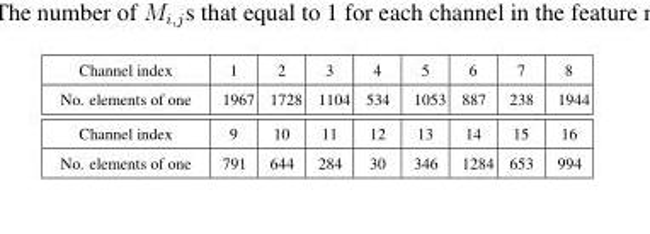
<table><tbody><tr><td>Channel index</td><td>1</td><td>2</td><td>3</td><td>4</td><td>5</td><td>6</td><td>7</td><td>8</td></tr><tr><td>No. elements of one</td><td>1967</td><td>1728</td><td>1104</td><td>534</td><td>1053</td><td>887</td><td>238</td><td>1944</td></tr><tr><td>Channel index</td><td>9</td><td>10</td><td>11</td><td>12</td><td>13</td><td>14</td><td>15</td><td>16</td></tr><tr><td>No. elements of one</td><td>791</td><td>644</td><td>284</td><td>30</td><td>346</td><td>1284</td><td>653</td><td>994</td></tr></tbody></table>